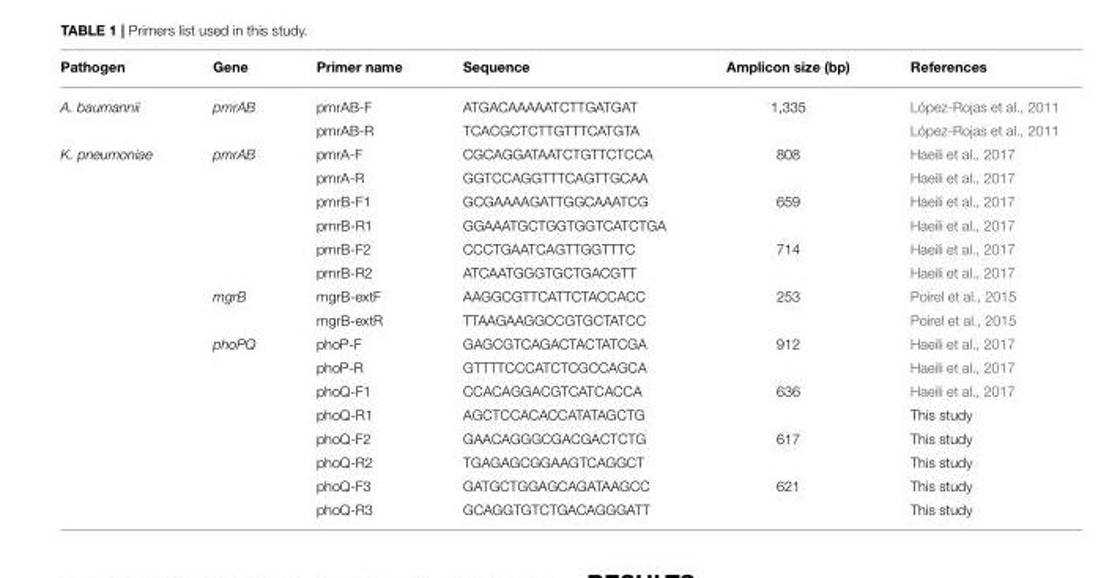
<table><thead><tr><td>Pathogen</td><td>Gene</td><td>Primer name</td><td>Sequence</td><td>Amplicon size (bp)</td><td>References</td></tr></thead><tbody><tr><td rowspan="2">A. baumannii</td><td>pmrAB</td><td>pmrAB-F</td><td>ATGACAAAAATCTTGATGAT</td><td>1,335</td><td>López-Rojas et al., 2011</td></tr><tr><td></td><td>pmrAB-R</td><td>TCACGCTCTTGTTTCATGTA</td><td></td><td>López-Rojas et al., 2011</td></tr><tr><td rowspan="16">K. pneumoniae</td><td>pmrAB</td><td>pmrA-F</td><td>CGCAGGATAATCTGTTCTCCA</td><td>808</td><td>Haeili et al., 2017</td></tr><tr><td></td><td>pmrA-R</td><td>GGTCCAGGTTTCAGTTGCAA</td><td></td><td>Haeili et al., 2017</td></tr><tr><td></td><td>pmrB-F1</td><td>GCGAAAAGATTGGCAAATCG</td><td>659</td><td>Haeili et al., 2017</td></tr><tr><td></td><td>pmrB-R1</td><td>GGAAATGCTGGTGGTCATCTGA</td><td></td><td>Haeili et al., 2017</td></tr><tr><td></td><td>pmrB-F2</td><td>CCCTGAATCAGTTGGTTTC</td><td>714</td><td>Haeili et al., 2017</td></tr><tr><td></td><td>pmrB-R2</td><td>ATCAATGGGTGCTGACGTT</td><td></td><td>Haeili et al., 2017</td></tr><tr><td>mgrB</td><td>mgrB-extF</td><td>AAGGCGTTCATTCTACCACC</td><td>253</td><td>Poirel et al., 2015</td></tr><tr><td></td><td>mgrB-extR</td><td>TTAAGAAGGCCGTGCTATCC</td><td></td><td>Poirel et al., 2015</td></tr><tr><td>phoPQ</td><td>phoP-F</td><td>GAGCGTCAGACTACTATCGA</td><td>912</td><td>Haeili et al., 2017</td></tr><tr><td></td><td>phoP-R</td><td>GTTTTCCCATCTCGCCAGCA</td><td></td><td>Haeili et al., 2017</td></tr><tr><td></td><td>phoQ-F1</td><td>CCACAGGACGTCATCACCA</td><td>636</td><td>Haeili et al., 2017</td></tr><tr><td></td><td>phoQ-R1</td><td>AGCTCCACACCATATAGCTG</td><td></td><td>This study</td></tr><tr><td></td><td>phoQ-F2</td><td>GAACAGGGCGACGACTCTG</td><td>617</td><td>This study</td></tr><tr><td></td><td>phoQ-R2</td><td>TGAGAGCGGAAGTCAGGCT</td><td></td><td>This study</td></tr><tr><td></td><td>phoQ-F3</td><td>GATGCTGGAGCAGATAAGCC</td><td>621</td><td>This study</td></tr><tr><td></td><td>phoQ-R3</td><td>GCAGGTGTCTGACAGGGATT</td><td></td><td>This study</td></tr></tbody></table>